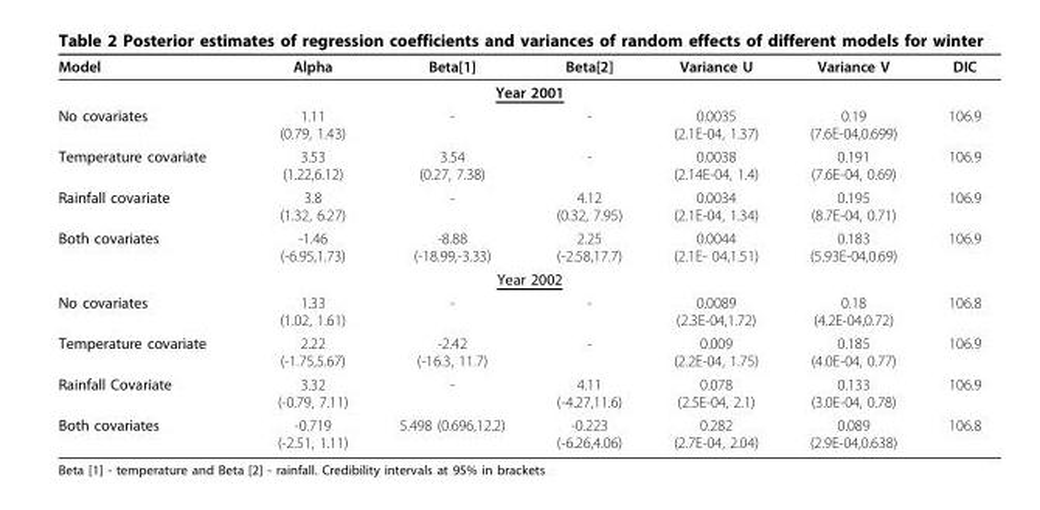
<table><thead><tr><td>Model</td><td>Alpha</td><td>Beta[1]</td><td>Beta[2]</td><td>Variance U</td><td>Variance V</td><td>DIC</td></tr></thead><tbody><tr><td colspan="7">Year 2001</td></tr><tr><td>No covariates</td><td>1.11 (0.79, 1.43)</td><td>-</td><td>-</td><td>0.0035 (2.1E-04, 1.37)</td><td>0.19 (7.6E-04,0.699)</td><td>106.9</td></tr><tr><td>Temperature covariate</td><td>3.53 (1.22,6.12)</td><td>3.54 (0.27, 7.38)</td><td>-</td><td>0.0038 (2.14E-04, 1.4)</td><td>0.191 (7.6E-04, 0.69)</td><td>106.9</td></tr><tr><td>Rainfall covariate</td><td>3.8 (1.32, 6.27)</td><td>-</td><td>4.12 (0.32, 7.95)</td><td>0.0034 (2.1E-04, 1.34)</td><td>0.195 (8.7E-04, 0.71)</td><td>106.9</td></tr><tr><td>Both covariates</td><td>-1.46 (-6.95,1.73)</td><td>-8.88 (-18.99,-3.33)</td><td>2.25 (-2.58,17.7)</td><td>0.0044 (2.1E- 04,1.51)</td><td>0.183 (5.93E-04,0.69)</td><td>106.9</td></tr><tr><td colspan="7">Year 2002</td></tr><tr><td>No covariates</td><td>1.33 (1.02, 1.61)</td><td>-</td><td>-</td><td>0.0089 (2.3E-04,1.72)</td><td>0.18 (4.2E-04,0.72)</td><td>106.8</td></tr><tr><td>Temperature covariate</td><td>2.22 (-1.75,5.67)</td><td>-2.42 (-16.3, 11.7)</td><td>-</td><td>0.009 (2.2E-04, 1.75)</td><td>0.185 (4.0E-04, 0.77)</td><td>106.9</td></tr><tr><td>Rainfall Covariate</td><td>3.32 (-0.79, 7.11)</td><td>-</td><td>4.11 (-4.27,11.6)</td><td>0.078 (2.5E-04, 2.1)</td><td>0.133 (3.0E-04, 0.78)</td><td>106.9</td></tr><tr><td>Both covariates</td><td>-0.719 (-2.51, 1.11)</td><td>5.498 (0.696,12.2)</td><td>-0.223 (-6.26,4.06)</td><td>0.282 (2.7E-04, 2.04)</td><td>0.089 (2.9E-04,0.638)</td><td>106.8</td></tr></tbody></table>